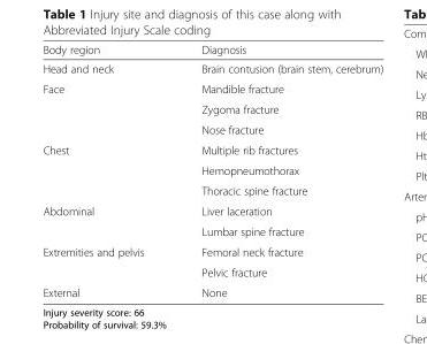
<table><thead><tr><td>Body region</td><td>Diagnosis</td></tr></thead><tbody><tr><td>Head and neck</td><td>Brain contusion (brain stem, cerebrum)</td></tr><tr><td rowspan="3">Face</td><td>Mandible fracture</td></tr><tr><td>Zygoma fracture</td></tr><tr><td>Nose fracture</td></tr><tr><td rowspan="3">Chest</td><td>Multiple rib fractures</td></tr><tr><td>Hemopneumothorax</td></tr><tr><td>Thoracic spine fracture</td></tr><tr><td rowspan="2">Abdominal</td><td>Liver laceration</td></tr><tr><td>Lumbar spine fracture</td></tr><tr><td rowspan="2">Extremities and pelvis</td><td>Femoral neck fracture</td></tr><tr><td>Pelvic fracture</td></tr><tr><td>External</td><td>None</td></tr></tbody></table>